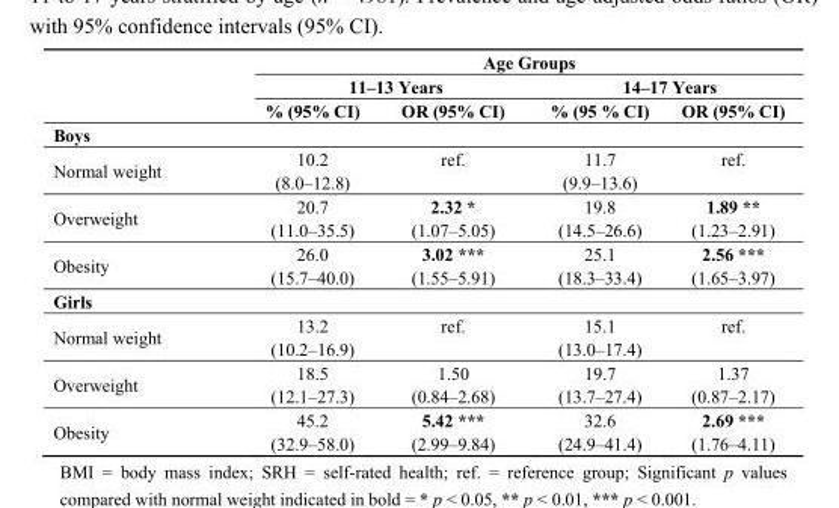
<table><thead><tr><td rowspan="3"></td><td colspan="4">Age Groups</td></tr><tr><td colspan="2">11‒13 Years</td><td colspan="2">14‒17 Years</td></tr><tr><td>% (95% CI)</td><td>OR (95% CI)</td><td>% (95 % CI)</td><td>OR (95% CI)</td></tr></thead><tbody><tr><td colspan="5">Boys</td></tr><tr><td>Normal weight</td><td>10.2 (8.0‒12.8)</td><td>ref.</td><td>11.7 (9.9‒13.6)</td><td>ref.</td></tr><tr><td>Overweight</td><td>20.7 (11.0‒35.5)</td><td>2.32 * (1.07‒5.05)</td><td>19.8 (14.5‒26.6)</td><td>1.89 ** (1.23‒2.91)</td></tr><tr><td>Obesity</td><td>26.0 (15.7‒40.0)</td><td>3.02 *** (1.55‒5.91)</td><td>25.1 (18.3‒33.4)</td><td>2.56 *** (1.65‒3.97)</td></tr><tr><td colspan="5">Girls</td></tr><tr><td>Normal weight</td><td>13.2 (10.2‒16.9)</td><td>ref.</td><td>15.1 (13.0‒17.4)</td><td>ref.</td></tr><tr><td>Overweight</td><td>18.5 (12.1‒27.3)</td><td>1.50 (0.84‒2.68)</td><td>19.7 (13.7‒27.4)</td><td>1.37 (0.87‒2.17)</td></tr><tr><td>Obesity</td><td>45.2 (32.9‒58.0)</td><td>5.42 *** (2.99‒9.84)</td><td>32.6 (24.9‒41.4)</td><td>2.69 *** (1.76‒4.11)</td></tr></tbody></table>